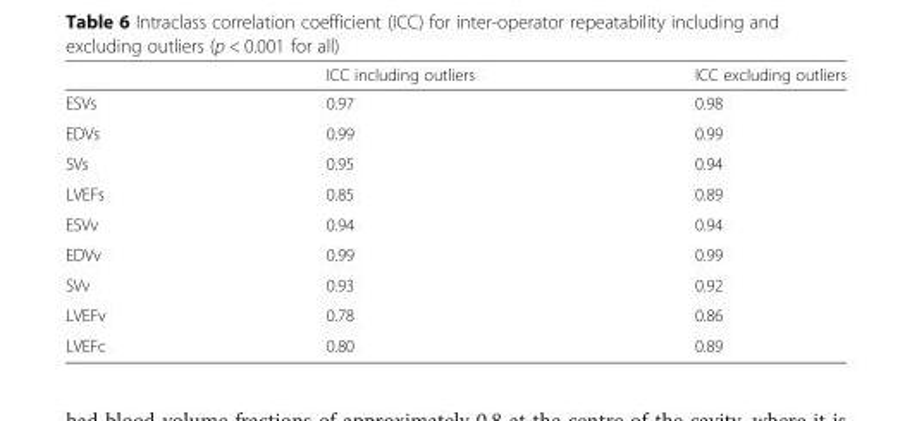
<table><thead><tr><td></td><td>ICC including outliers</td><td>ICC excluding outliers</td></tr></thead><tbody><tr><td>ESVs</td><td>0.97</td><td>0.98</td></tr><tr><td>EDVs</td><td>0.99</td><td>0.99</td></tr><tr><td>SVs</td><td>0.95</td><td>0.94</td></tr><tr><td>LVEFs</td><td>0.85</td><td>0.89</td></tr><tr><td>ESVv</td><td>0.94</td><td>0.94</td></tr><tr><td>EDVv</td><td>0.99</td><td>0.99</td></tr><tr><td>SVv</td><td>0.93</td><td>0.92</td></tr><tr><td>LVEFv</td><td>0.78</td><td>0.86</td></tr><tr><td>LVEFc</td><td>0.80</td><td>0.89</td></tr></tbody></table>